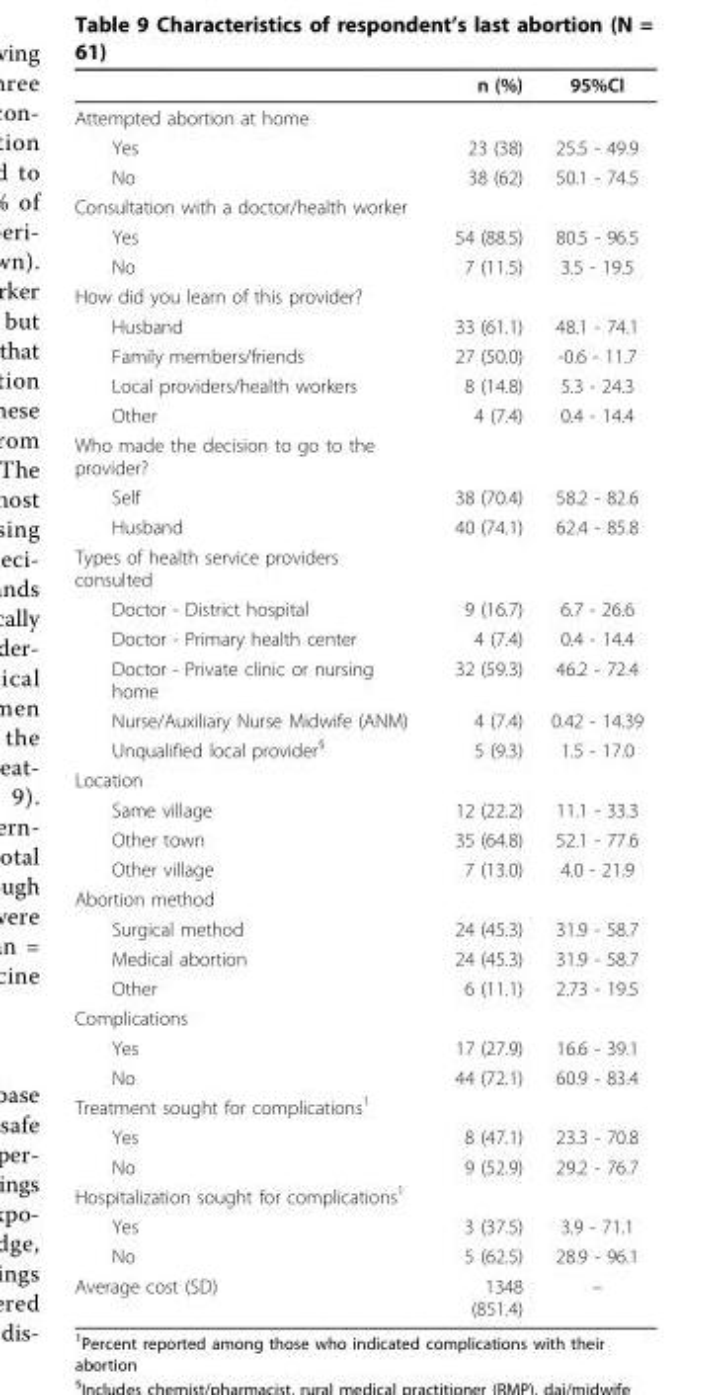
<table><thead><tr><td></td><td>n (%)</td><td>95%CI</td></tr></thead><tbody><tr><td colspan="3">Attempted abortion at home</td></tr><tr><td>Yes</td><td>23 (38)</td><td>25.5 - 49.9</td></tr><tr><td>No</td><td>38 (62)</td><td>50.1 - 74.5</td></tr><tr><td colspan="3">Consultation with a doctor/health worker</td></tr><tr><td>Yes</td><td>54 (88.5)</td><td>80.5 - 96.5</td></tr><tr><td>No</td><td>7 (11.5)</td><td>3.5 - 19.5</td></tr><tr><td colspan="3">How did you learn of this provider?</td></tr><tr><td>Husband</td><td>33 (61.1)</td><td>48.1 - 74.1</td></tr><tr><td>Family members/friends</td><td>27 (50.0)</td><td>-0.6 - 11.7</td></tr><tr><td>Local providers/health workers</td><td>8 (14.8)</td><td>5.3 - 24.3</td></tr><tr><td>Other</td><td>4 (7.4)</td><td>0.4 - 14.4</td></tr><tr><td colspan="3">Who made the decision to go to the provider?</td></tr><tr><td>Self</td><td>38 (70.4)</td><td>58.2 - 82.6</td></tr><tr><td>Husband</td><td>40 (74.1)</td><td>62.4 - 85.8</td></tr><tr><td colspan="3">Types of health service providers consulted</td></tr><tr><td>Doctor - District hospital</td><td>9 (16.7)</td><td>6.7 - 26.6</td></tr><tr><td>Doctor - Primary health center</td><td>4 (7.4)</td><td>0.4 - 14.4</td></tr><tr><td>Doctor - Private clinic or nursing home</td><td>32 (59.3)</td><td>46.2 - 72.4</td></tr><tr><td>Nurse/Auxiliary Nurse Midwife (ANM)</td><td>4 (7.4)</td><td>0.42 - 14.39</td></tr><tr><td>Unqualified local provider<sup>§</sup></td><td>5 (9.3)</td><td>1.5 - 17.0</td></tr><tr><td colspan="3">Location</td></tr><tr><td>Same village</td><td>12 (22.2)</td><td>11.1 - 33.3</td></tr><tr><td>Other town</td><td>35 (64.8)</td><td>52.1 - 77.6</td></tr><tr><td>Other village</td><td>7 (13.0)</td><td>4.0 - 21.9</td></tr><tr><td colspan="3">Abortion method</td></tr><tr><td>Surgical method</td><td>24 (45.3)</td><td>31.9 - 58.7</td></tr><tr><td>Medical abortion</td><td>24 (45.3)</td><td>31.9 - 58.7</td></tr><tr><td>Other</td><td>6 (11.1)</td><td>2.73 - 19.5</td></tr><tr><td colspan="3">Complications</td></tr><tr><td>Yes</td><td>17 (27.9)</td><td>16.6 - 39.1</td></tr><tr><td>No</td><td>44 (72.1)</td><td>60.9 - 83.4</td></tr><tr><td colspan="3">Treatment sought for complications<sup>1</sup></td></tr><tr><td>Yes</td><td>8 (47.1)</td><td>23.3 - 70.8</td></tr><tr><td>No</td><td>9 (52.9)</td><td>29.2 - 76.7</td></tr><tr><td colspan="3">Hospitalization sought for complications<sup>1</sup></td></tr><tr><td>Yes</td><td>3 (37.5)</td><td>3.9 - 71.1</td></tr><tr><td>No</td><td>5 (62.5)</td><td>28.9 - 96.1</td></tr><tr><td>Average cost (SD)</td><td>1348 (851.4)</td><td>–</td></tr></tbody></table>